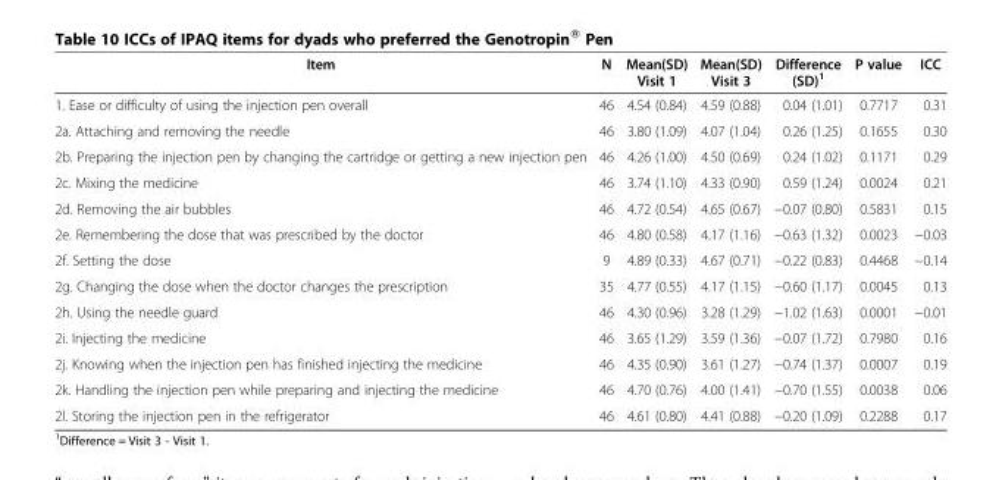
<table><thead><tr><td>Item</td><td>N</td><td>Mean(SD) Visit 1</td><td>Mean(SD) Visit 3</td><td>Difference (SD)<sup>1</sup></td><td>P value</td><td>ICC</td></tr></thead><tbody><tr><td>1. Ease or difficulty of using the injection pen overall</td><td>46</td><td>4.54 (0.84)</td><td>4.59 (0.88)</td><td>0.04 (1.01)</td><td>0.7717</td><td>0.31</td></tr><tr><td>2a. Attaching and removing the needle</td><td>46</td><td>3.80 (1.09)</td><td>4.07 (1.04)</td><td>0.26 (1.25)</td><td>0.1655</td><td>0.30</td></tr><tr><td>2b. Preparing the injection pen by changing the cartridge or getting a new injection pen</td><td>46</td><td>4.26 (1.00)</td><td>4.50 (0.69)</td><td>0.24 (1.02)</td><td>0.1171</td><td>0.29</td></tr><tr><td>2c. Mixing the medicine</td><td>46</td><td>3.74 (1.10)</td><td>4.33 (0.90)</td><td>0.59 (1.24)</td><td>0.0024</td><td>0.21</td></tr><tr><td>2d. Removing the air bubbles</td><td>46</td><td>4.72 (0.54)</td><td>4.65 (0.67)</td><td>−0.07 (0.80)</td><td>0.5831</td><td>0.15</td></tr><tr><td>2e. Remembering the dose that was prescribed by the doctor</td><td>46</td><td>4.80 (0.58)</td><td>4.17 (1.16)</td><td>−0.63 (1.32)</td><td>0.0023</td><td>−0.03</td></tr><tr><td>2f. Setting the dose</td><td>9</td><td>4.89 (0.33)</td><td>4.67 (0.71)</td><td>−0.22 (0.83)</td><td>0.4468</td><td>−0.14</td></tr><tr><td>2g. Changing the dose when the doctor changes the prescription</td><td>35</td><td>4.77 (0.55)</td><td>4.17 (1.15)</td><td>−0.60 (1.17)</td><td>0.0045</td><td>0.13</td></tr><tr><td>2h. Using the needle guard</td><td>46</td><td>4.30 (0.96)</td><td>3.28 (1.29)</td><td>−1.02 (1.63)</td><td>0.0001</td><td>−0.01</td></tr><tr><td>2i. Injecting the medicine</td><td>46</td><td>3.65 (1.29)</td><td>3.59 (1.36)</td><td>−0.07 (1.72)</td><td>0.7980</td><td>0.16</td></tr><tr><td>2j. Knowing when the injection pen has finished injecting the medicine</td><td>46</td><td>4.35 (0.90)</td><td>3.61 (1.27)</td><td>−0.74 (1.37)</td><td>0.0007</td><td>0.19</td></tr><tr><td>2k. Handling the injection pen while preparing and injecting the medicine</td><td>46</td><td>4.70 (0.76)</td><td>4.00 (1.41)</td><td>−0.70 (1.55)</td><td>0.0038</td><td>0.06</td></tr><tr><td>2l. Storing the injection pen in the refrigerator</td><td>46</td><td>4.61 (0.80)</td><td>4.41 (0.88)</td><td>−0.20 (1.09)</td><td>0.2288</td><td>0.17</td></tr></tbody></table>